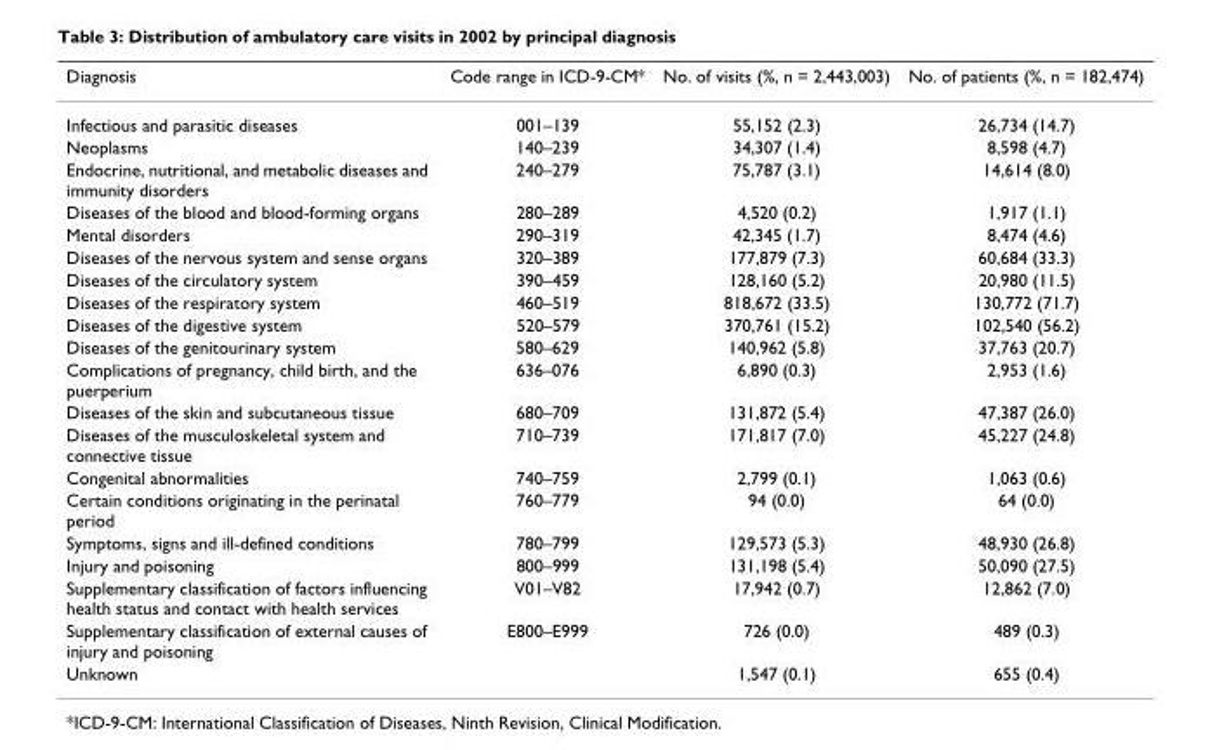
<table><thead><tr><td>Diagnosis</td><td>Code range in ICD-9-CM*</td><td>No. of visits (%, n = 2,443,003)</td><td>No. of patients (%, n = 182,474)</td></tr></thead><tbody><tr><td>Infectious and parasitic diseases</td><td>001–139</td><td>55,152 (2.3)</td><td>26,734 (14.7)</td></tr><tr><td>Neoplasms</td><td>140–239</td><td>34,307 (1.4)</td><td>8,598 (4.7)</td></tr><tr><td>Endocrine, nutritional, and metabolic diseases and immunity disorders</td><td>240–279</td><td>75,787 (3.1)</td><td>14,614 (8.0)</td></tr><tr><td>Diseases of the blood and blood-forming organs</td><td>280–289</td><td>4,520 (0.2)</td><td>1,917 (1.1)</td></tr><tr><td>Mental disorders</td><td>290–319</td><td>42,345 (1.7)</td><td>8,474 (4.6)</td></tr><tr><td>Diseases of the nervous system and sense organs</td><td>320–389</td><td>177,879 (7.3)</td><td>60,684 (33.3)</td></tr><tr><td>Diseases of the circulatory system</td><td>390–459</td><td>128,160 (5.2)</td><td>20,980 (11.5)</td></tr><tr><td>Diseases of the respiratory system</td><td>460–519</td><td>818,672 (33.5)</td><td>130,772 (71.7)</td></tr><tr><td>Diseases of the digestive system</td><td>520–579</td><td>370,761 (15.2)</td><td>102,540 (56.2)</td></tr><tr><td>Diseases of the genitourinary system</td><td>580–629</td><td>140,962 (5.8)</td><td>37,763 (20.7)</td></tr><tr><td>Complications of pregnancy, child birth, and the puerperium</td><td>636–076</td><td>6,890 (0.3)</td><td>2,953 (1.6)</td></tr><tr><td>Diseases of the skin and subcutaneous tissue</td><td>680–709</td><td>131,872 (5.4)</td><td>47,387 (26.0)</td></tr><tr><td>Diseases of the musculoskeletal system and connective tissue</td><td>710–739</td><td>171,817 (7.0)</td><td>45,227 (24.8)</td></tr><tr><td>Congenital abnormalities</td><td>740–759</td><td>2,799 (0.1)</td><td>1,063 (0.6)</td></tr><tr><td>Certain conditions originating in the perinatal period</td><td>760–779</td><td>94 (0.0)</td><td>64 (0.0)</td></tr><tr><td>Symptoms, signs and ill-defined conditions</td><td>780–799</td><td>129,573 (5.3)</td><td>48,930 (26.8)</td></tr><tr><td>Injury and poisoning</td><td>800–999</td><td>131,198 (5.4)</td><td>50,090 (27.5)</td></tr><tr><td>Supplementary classification of factors influencing health status and contact with health services</td><td>V01–V82</td><td>17,942 (0.7)</td><td>12,862 (7.0)</td></tr><tr><td>Supplementary classification of external causes of injury and poisoning</td><td>E800–E999</td><td>726 (0.0)</td><td>489 (0.3)</td></tr><tr><td>Unknown</td><td></td><td>1,547 (0.1)</td><td>655 (0.4)</td></tr></tbody></table>